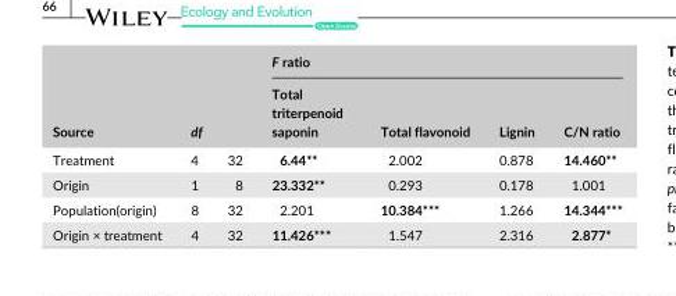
<table><thead><tr><td rowspan="3">Source Treatment</td><td rowspan="2" colspan="2">df</td><td colspan="4">F ratio</td></tr><tr><td rowspan="2">Total triterpenoid saponin 6.44**</td><td rowspan="2">Total flavonoid 2.002</td><td rowspan="2">Lignin 0.878</td><td rowspan="2">C/N ratio 14.460**</td></tr><tr><td>4</td><td>32</td></tr></thead><tbody><tr><td>Origin</td><td>1</td><td>8</td><td>23.332**</td><td>0.293</td><td>0.178</td><td>1.001</td></tr><tr><td>Population(origin)</td><td>8</td><td>32</td><td>2.201</td><td>10.384***</td><td>1.266</td><td>14.344***</td></tr><tr><td>Origin × treatment</td><td>4</td><td>32</td><td>11.426***</td><td>1.547</td><td>2.316</td><td>2.877*</td></tr></tbody></table>